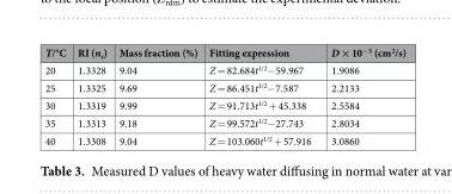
<table><thead><tr><td>T/°C</td><td>RI (n<sub>c</sub>)</td><td>Mass fraction (%)</td><td>Fitting expression</td><td>D × 10<sup>−5</sup> (cm<sup>2</sup>/s)</td></tr></thead><tbody><tr><td>20</td><td>1.3328</td><td>9.04</td><td>Z = 82.684t<sup>1/2</sup>−59.967</td><td>1.9086</td></tr><tr><td>25</td><td>1.3325</td><td>9.69</td><td>Z = 86.451t<sup>1/2</sup>−7.587</td><td>2.2133</td></tr><tr><td>30</td><td>1.3319</td><td>9.99</td><td>Z = 91.713t<sup>1/2</sup> + 45.338</td><td>2.5584</td></tr><tr><td>35</td><td>1.3313</td><td>9.18</td><td>Z = 99.572t<sup>1/2</sup>−27.743</td><td>2.8034</td></tr><tr><td>40</td><td>1.3308</td><td>9.04</td><td>Z = 103.060t<sup>1/2</sup> + 57.916</td><td>3.0860</td></tr></tbody></table>